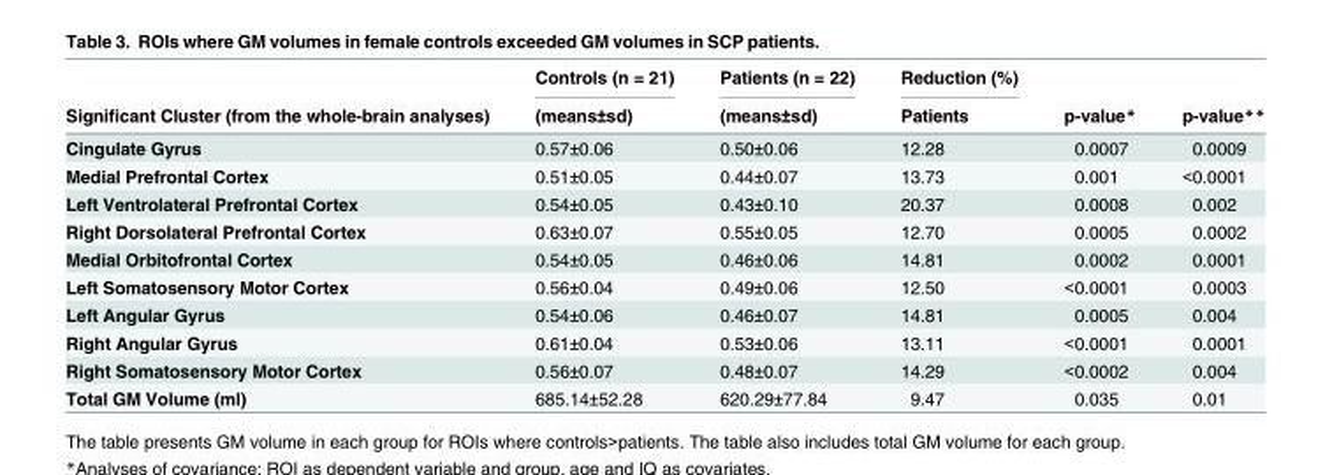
<table><thead><tr><td rowspan="2">Significant Cluster (from the whole-brain analyses)</td><td rowspan="2">Controls (n = 21) (means±sd)</td><td rowspan="2">Patients (n = 22) (means±sd)</td><td rowspan="2">Reduction (%) Patients</td><td rowspan="2">p-value*</td><td rowspan="2">p-value**</td></tr><tr></tr></thead><tbody><tr><td>Cingulate Gyrus</td><td>0.57±0.06</td><td>0.50±0.06</td><td>12.28</td><td>0.0007</td><td>0.0009</td></tr><tr><td>Medial Prefrontal Cortex</td><td>0.51±0.05</td><td>0.44±0.07</td><td>13.73</td><td>0.001</td><td>&lt;0.0001</td></tr><tr><td>Left Ventrolateral Prefrontal Cortex</td><td>0.54±0.05</td><td>0.43±0.10</td><td>20.37</td><td>0.0008</td><td>0.002</td></tr><tr><td>Right Dorsolateral Prefrontal Cortex</td><td>0.63±0.07</td><td>0.55±0.05</td><td>12.70</td><td>0.0005</td><td>0.0002</td></tr><tr><td>Medial Orbitofrontal Cortex</td><td>0.54±0.05</td><td>0.46±0.06</td><td>14.81</td><td>0.0002</td><td>0.0001</td></tr><tr><td>Left Somatosensory Motor Cortex</td><td>0.56±0.04</td><td>0.49±0.06</td><td>12.50</td><td>&lt;0.0001</td><td>0.0003</td></tr><tr><td>Left Angular Gyrus</td><td>0.54±0.06</td><td>0.46±0.07</td><td>14.81</td><td>0.0005</td><td>0.004</td></tr><tr><td>Right Angular Gyrus</td><td>0.61±0.04</td><td>0.53±0.06</td><td>13.11</td><td>&lt;0.0001</td><td>0.0001</td></tr><tr><td>Right Somatosensory Motor Cortex</td><td>0.56±0.07</td><td>0.48±0.07</td><td>14.29</td><td>&lt;0.0002</td><td>0.004</td></tr><tr><td>Total GM Volume (ml)</td><td>685.14±52.28</td><td>620.29±77.84</td><td>9.47</td><td>0.035</td><td>0.01</td></tr></tbody></table>